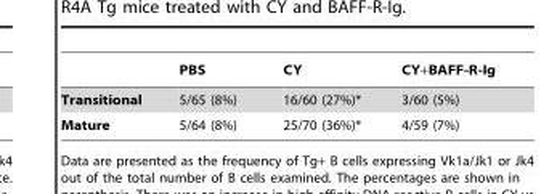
<table><thead><tr><td></td><td>PBS</td><td>CY</td><td>CY+BAFF-R-Ig</td></tr></thead><tbody><tr><td>Transitional</td><td>5/65 (8%)</td><td>16/60 (27%)*</td><td>3/60 (5%)</td></tr><tr><td>Mature</td><td>5/64 (8%)</td><td>25/70 (36%)*</td><td>4/59 (7%)</td></tr></tbody></table>